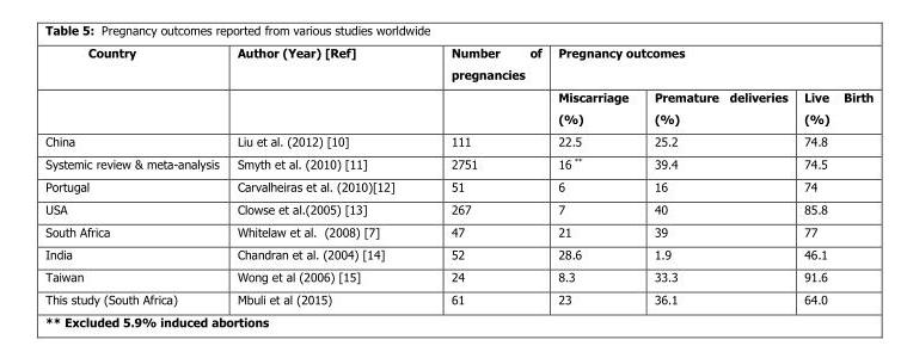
<table><thead><tr><td rowspan="2">Country</td><td rowspan="2">Author (Year) [Ref]</td><td rowspan="2">Number of pregnancies</td><td colspan="3">Pregnancy outcomes</td></tr><tr><td>Miscarriage (%)</td><td>Premature deliveries (%)</td><td>Live Birth (%)</td></tr></thead><tbody><tr><td>China</td><td>Liu et al. (2012) [10]</td><td>111</td><td>22.5</td><td>25.2</td><td>74.8</td></tr><tr><td>Systemic review &amp; meta-analysis</td><td>Smyth et al. (2010) [11]</td><td>2751</td><td>16 **</td><td>39.4</td><td>74.5</td></tr><tr><td>Portugal</td><td>Carvalheiras et al. (2010)[12]</td><td>51</td><td>6</td><td>16</td><td>74</td></tr><tr><td>USA</td><td>Clowse et al.(2005) [13]</td><td>267</td><td>7</td><td>40</td><td>85.8</td></tr><tr><td>South Africa</td><td>Whitelaw et al. (2008) [7]</td><td>47</td><td>21</td><td>39</td><td>77</td></tr><tr><td>India</td><td>Chandran et al. (2004) [14]</td><td>52</td><td>28.6</td><td>1.9</td><td>46.1</td></tr><tr><td>Taiwan</td><td>Wong et al (2006) [15]</td><td>24</td><td>8.3</td><td>33.3</td><td>91.6</td></tr><tr><td>This study (South Africa)</td><td>Mbuli et al (2015)</td><td>61</td><td>23</td><td>36.1</td><td>64.0</td></tr></tbody></table>